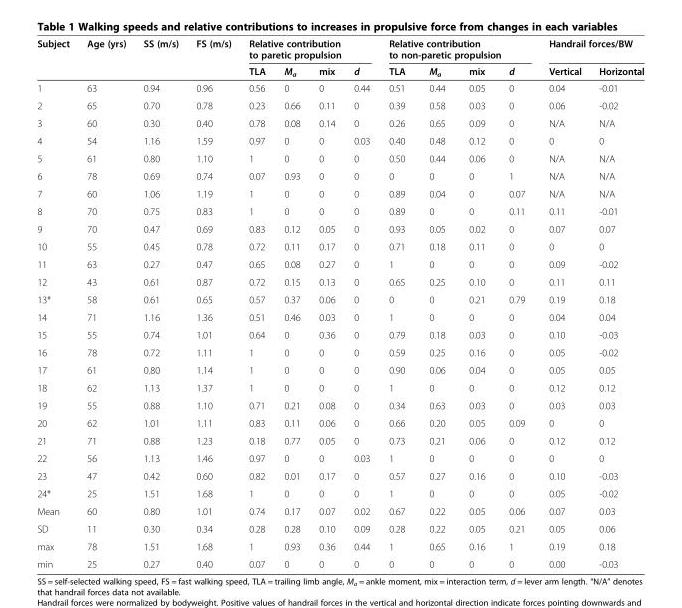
<table><thead><tr><td rowspan="2">Subject</td><td rowspan="2">Age (yrs)</td><td rowspan="2">SS (m/s)</td><td rowspan="2">FS (m/s)</td><td colspan="4">Relative contribution to paretic propulsion</td><td colspan="4">Relative contribution to non-paretic propulsion</td><td colspan="2">Handrail forces/BW</td></tr><tr><td>TLA</td><td>M<sub>a</sub></td><td>mix</td><td>d</td><td>TLA</td><td>M<sub>a</sub></td><td>mix</td><td>d</td><td>Vertical</td><td>Horizontal</td></tr></thead><tbody><tr><td>1</td><td>63</td><td>0.94</td><td>0.96</td><td>0.56</td><td>0</td><td>0</td><td>0.44</td><td>0.51</td><td>0.44</td><td>0.05</td><td>0</td><td>0.04</td><td>-0.01</td></tr><tr><td>2</td><td>65</td><td>0.70</td><td>0.78</td><td>0.23</td><td>0.66</td><td>0.11</td><td>0</td><td>0.39</td><td>0.58</td><td>0.03</td><td>0</td><td>0.06</td><td>-0.02</td></tr><tr><td>3</td><td>60</td><td>0.30</td><td>0.40</td><td>0.78</td><td>0.08</td><td>0.14</td><td>0</td><td>0.26</td><td>0.65</td><td>0.09</td><td>0</td><td>N/A</td><td>N/A</td></tr><tr><td>4</td><td>54</td><td>1.16</td><td>1.59</td><td>0.97</td><td>0</td><td>0</td><td>0.03</td><td>0.40</td><td>0.48</td><td>0.12</td><td>0</td><td>0</td><td>0</td></tr><tr><td>5</td><td>61</td><td>0.80</td><td>1.10</td><td>1</td><td>0</td><td>0</td><td>0</td><td>0.50</td><td>0.44</td><td>0.06</td><td>0</td><td>N/A</td><td>N/A</td></tr><tr><td>6</td><td>78</td><td>0.69</td><td>0.74</td><td>0.07</td><td>0.93</td><td>0</td><td>0</td><td>0</td><td>0</td><td>0</td><td>1</td><td>N/A</td><td>N/A</td></tr><tr><td>7</td><td>60</td><td>1.06</td><td>1.19</td><td>1</td><td>0</td><td>0</td><td>0</td><td>0.89</td><td>0.04</td><td>0</td><td>0.07</td><td>N/A</td><td>N/A</td></tr><tr><td>8</td><td>70</td><td>0.75</td><td>0.83</td><td>1</td><td>0</td><td>0</td><td>0</td><td>0.89</td><td>0</td><td>0</td><td>0.11</td><td>0.11</td><td>-0.01</td></tr><tr><td>9</td><td>70</td><td>0.47</td><td>0.69</td><td>0.83</td><td>0.12</td><td>0.05</td><td>0</td><td>0.93</td><td>0.05</td><td>0.02</td><td>0</td><td>0.07</td><td>0.07</td></tr><tr><td>10</td><td>55</td><td>0.45</td><td>0.78</td><td>0.72</td><td>0.11</td><td>0.17</td><td>0</td><td>0.71</td><td>0.18</td><td>0.11</td><td>0</td><td>0</td><td>0</td></tr><tr><td>11</td><td>63</td><td>0.27</td><td>0.47</td><td>0.65</td><td>0.08</td><td>0.27</td><td>0</td><td>1</td><td>0</td><td>0</td><td>0</td><td>0.09</td><td>-0.02</td></tr><tr><td>12</td><td>43</td><td>0.61</td><td>0.87</td><td>0.72</td><td>0.15</td><td>0.13</td><td>0</td><td>0.65</td><td>0.25</td><td>0.10</td><td>0</td><td>0.11</td><td>0.11</td></tr><tr><td>13*</td><td>58</td><td>0.61</td><td>0.65</td><td>0.57</td><td>0.37</td><td>0.06</td><td>0</td><td>0</td><td>0</td><td>0.21</td><td>0.79</td><td>0.19</td><td>0.18</td></tr><tr><td>14</td><td>71</td><td>1.16</td><td>1.36</td><td>0.51</td><td>0.46</td><td>0.03</td><td>0</td><td>1</td><td>0</td><td>0</td><td>0</td><td>0.04</td><td>0.04</td></tr><tr><td>15</td><td>55</td><td>0.74</td><td>1.01</td><td>0.64</td><td>0</td><td>0.36</td><td>0</td><td>0.79</td><td>0.18</td><td>0.03</td><td>0</td><td>0.10</td><td>-0.03</td></tr><tr><td>16</td><td>78</td><td>0.72</td><td>1.11</td><td>1</td><td>0</td><td>0</td><td>0</td><td>0.59</td><td>0.25</td><td>0.16</td><td>0</td><td>0.05</td><td>-0.02</td></tr><tr><td>17</td><td>61</td><td>0.80</td><td>1.14</td><td>1</td><td>0</td><td>0</td><td>0</td><td>0.90</td><td>0.06</td><td>0.04</td><td>0</td><td>0.05</td><td>0.05</td></tr><tr><td>18</td><td>62</td><td>1.13</td><td>1.37</td><td>1</td><td>0</td><td>0</td><td>0</td><td>1</td><td>0</td><td>0</td><td>0</td><td>0.12</td><td>0.12</td></tr><tr><td>19</td><td>55</td><td>0.88</td><td>1.10</td><td>0.71</td><td>0.21</td><td>0.08</td><td>0</td><td>0.34</td><td>0.63</td><td>0.03</td><td>0</td><td>0.03</td><td>0.03</td></tr><tr><td>20</td><td>62</td><td>1.01</td><td>1.11</td><td>0.83</td><td>0.11</td><td>0.06</td><td>0</td><td>0.66</td><td>0.20</td><td>0.05</td><td>0.09</td><td>0</td><td>0</td></tr><tr><td>21</td><td>71</td><td>0.88</td><td>1.23</td><td>0.18</td><td>0.77</td><td>0.05</td><td>0</td><td>0.73</td><td>0.21</td><td>0.06</td><td>0</td><td>0.12</td><td>0.12</td></tr><tr><td>22</td><td>56</td><td>1.13</td><td>1.46</td><td>0.97</td><td>0</td><td>0</td><td>0.03</td><td>1</td><td>0</td><td>0</td><td>0</td><td>0</td><td>0</td></tr><tr><td>23</td><td>47</td><td>0.42</td><td>0.60</td><td>0.82</td><td>0.01</td><td>0.17</td><td>0</td><td>0.57</td><td>0.27</td><td>0.16</td><td>0</td><td>0.10</td><td>-0.03</td></tr><tr><td>24*</td><td>25</td><td>1.51</td><td>1.68</td><td>1</td><td>0</td><td>0</td><td>0</td><td>1</td><td>0</td><td>0</td><td>0</td><td>0.05</td><td>-0.02</td></tr><tr><td>Mean</td><td>60</td><td>0.80</td><td>1.01</td><td>0.74</td><td>0.17</td><td>0.07</td><td>0.02</td><td>0.67</td><td>0.22</td><td>0.05</td><td>0.06</td><td>0.07</td><td>0.03</td></tr><tr><td>SD</td><td>11</td><td>0.30</td><td>0.34</td><td>0.28</td><td>0.28</td><td>0.10</td><td>0.09</td><td>0.28</td><td>0.22</td><td>0.05</td><td>0.21</td><td>0.05</td><td>0.06</td></tr><tr><td>max</td><td>78</td><td>1.51</td><td>1.68</td><td>1</td><td>0.93</td><td>0.36</td><td>0.44</td><td>1</td><td>0.65</td><td>0.16</td><td>1</td><td>0.19</td><td>0.18</td></tr><tr><td>min</td><td>25</td><td>0.27</td><td>0.40</td><td>0.07</td><td>0</td><td>0</td><td>0</td><td>0</td><td>0</td><td>0</td><td>0</td><td>0.00</td><td>-0.03</td></tr></tbody></table>